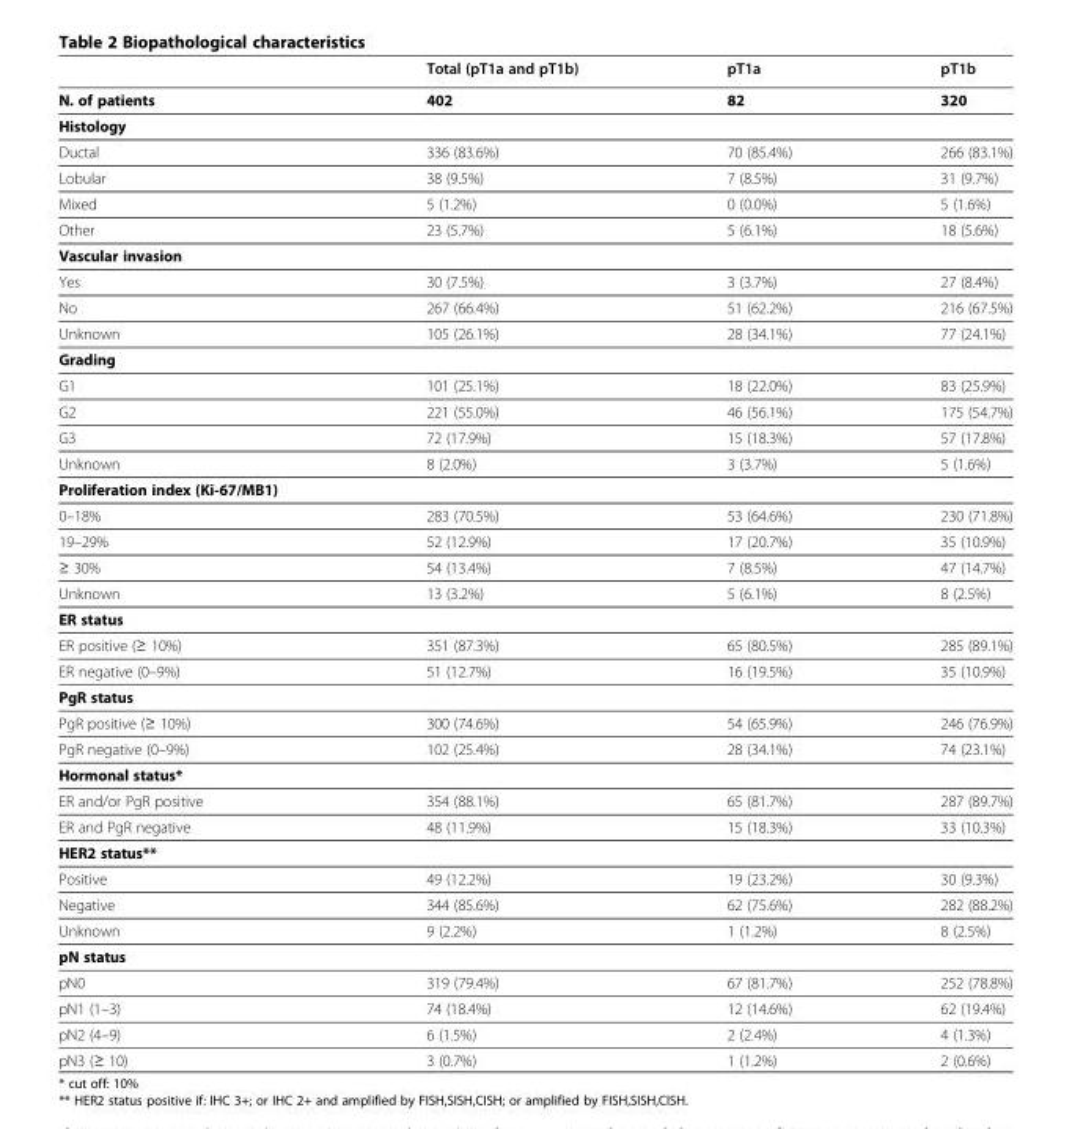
<table><thead><tr><td></td><td>Total (pT1a and pT1b)</td><td>pT1a</td><td>pT1b</td></tr></thead><tbody><tr><td>N. of patients</td><td>402</td><td>82</td><td>320</td></tr><tr><td colspan="4">Histology</td></tr><tr><td>Ductal</td><td>336 (83.6%)</td><td>70 (85.4%)</td><td>266 (83.1%)</td></tr><tr><td>Lobular</td><td>38 (9.5%)</td><td>7 (8.5%)</td><td>31 (9.7%)</td></tr><tr><td>Mixed</td><td>5 (1.2%)</td><td>0 (0.0%)</td><td>5 (1.6%)</td></tr><tr><td>Other</td><td>23 (5.7%)</td><td>5 (6.1%)</td><td>18 (5.6%)</td></tr><tr><td colspan="4">Vascular invasion</td></tr><tr><td>Yes</td><td>30 (7.5%)</td><td>3 (3.7%)</td><td>27 (8.4%)</td></tr><tr><td>No</td><td>267 (66.4%)</td><td>51 (62.2%)</td><td>216 (67.5%)</td></tr><tr><td>Unknown</td><td>105 (26.1%)</td><td>28 (34.1%)</td><td>77 (24.1%)</td></tr><tr><td colspan="4">Grading</td></tr><tr><td>G1</td><td>101 (25.1%)</td><td>18 (22.0%)</td><td>83 (25.9%)</td></tr><tr><td>G2</td><td>221 (55.0%)</td><td>46 (56.1%)</td><td>175 (54.7%)</td></tr><tr><td>G3</td><td>72 (17.9%)</td><td>15 (18.3%)</td><td>57 (17.8%)</td></tr><tr><td>Unknown</td><td>8 (2.0%)</td><td>3 (3.7%)</td><td>5 (1.6%)</td></tr><tr><td colspan="4">Proliferation index (Ki-67/MB1)</td></tr><tr><td>0–18%</td><td>283 (70.5%)</td><td>53 (64.6%)</td><td>230 (71.8%)</td></tr><tr><td>19–29%</td><td>52 (12.9%)</td><td>17 (20.7%)</td><td>35 (10.9%)</td></tr><tr><td>≥ 30%</td><td>54 (13.4%)</td><td>7 (8.5%)</td><td>47 (14.7%)</td></tr><tr><td>Unknown</td><td>13 (3.2%)</td><td>5 (6.1%)</td><td>8 (2.5%)</td></tr><tr><td colspan="4">ER status</td></tr><tr><td>ER positive (≥ 10%)</td><td>351 (87.3%)</td><td>65 (80.5%)</td><td>285 (89.1%)</td></tr><tr><td>ER negative (0–9%)</td><td>51 (12.7%)</td><td>16 (19.5%)</td><td>35 (10.9%)</td></tr><tr><td colspan="4">PgR status</td></tr><tr><td>PgR positive (≥ 10%)</td><td>300 (74.6%)</td><td>54 (65.9%)</td><td>246 (76.9%)</td></tr><tr><td>PgR negative (0–9%)</td><td>102 (25.4%)</td><td>28 (34.1%)</td><td>74 (23.1%)</td></tr><tr><td colspan="4">Hormonal status*</td></tr><tr><td>ER and/or PgR positive</td><td>354 (88.1%)</td><td>65 (81.7%)</td><td>287 (89.7%)</td></tr><tr><td>ER and PgR negative</td><td>48 (11.9%)</td><td>15 (18.3%)</td><td>33 (10.3%)</td></tr><tr><td colspan="4">HER2 status**</td></tr><tr><td>Positive</td><td>49 (12.2%)</td><td>19 (23.2%)</td><td>30 (9.3%)</td></tr><tr><td>Negative</td><td>344 (85.6%)</td><td>62 (75.6%)</td><td>282 (88.2%)</td></tr><tr><td>Unknown</td><td>9 (2.2%)</td><td>1 (1.2%)</td><td>8 (2.5%)</td></tr><tr><td colspan="4">pN status</td></tr><tr><td>pN0</td><td>319 (79.4%)</td><td>67 (81.7%)</td><td>252 (78.8%)</td></tr><tr><td>pN1 (1–3)</td><td>74 (18.4%)</td><td>12 (14.6%)</td><td>62 (19.4%)</td></tr><tr><td>pN2 (4–9)</td><td>6 (1.5%)</td><td>2 (2.4%)</td><td>4 (1.3%)</td></tr><tr><td>pN3 (≥ 10)</td><td>3 (0.7%)</td><td>1 (1.2%)</td><td>2 (0.6%)</td></tr></tbody></table>